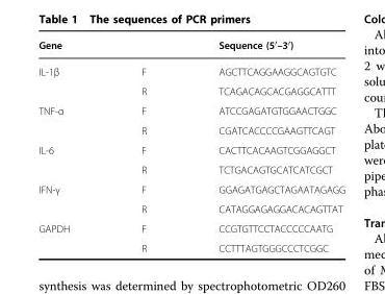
<table><thead><tr><td>Gene</td><td></td><td>Sequence (5′–3′)</td></tr></thead><tbody><tr><td rowspan="2">IL-1β</td><td>F</td><td>AGCTTCAGGAAGGCAGTGTC</td></tr><tr><td>R</td><td>TCAGACAGCACGAGGCATTT</td></tr><tr><td rowspan="2">TNF-α</td><td>F</td><td>ATCCGAGATGTGGAACTGGC</td></tr><tr><td>R</td><td>CGATCACCCCGAAGTTCAGT</td></tr><tr><td rowspan="2">IL-6</td><td>F</td><td>CACTTCACAAGTCGGAGGCT</td></tr><tr><td>R</td><td>TCTGACAGTGCATCATCGCT</td></tr><tr><td rowspan="2">IFN-γ</td><td>F</td><td>GGAGATGAGCTAGAATAGAGG</td></tr><tr><td>R</td><td>CATAGGAGAGGACACAGTTAT</td></tr><tr><td rowspan="2">GAPDH</td><td>F</td><td>CCGTGTTCCTACCCCCAATG</td></tr><tr><td>R</td><td>CCTTTAGTGGGCCCTCGGC</td></tr></tbody></table>